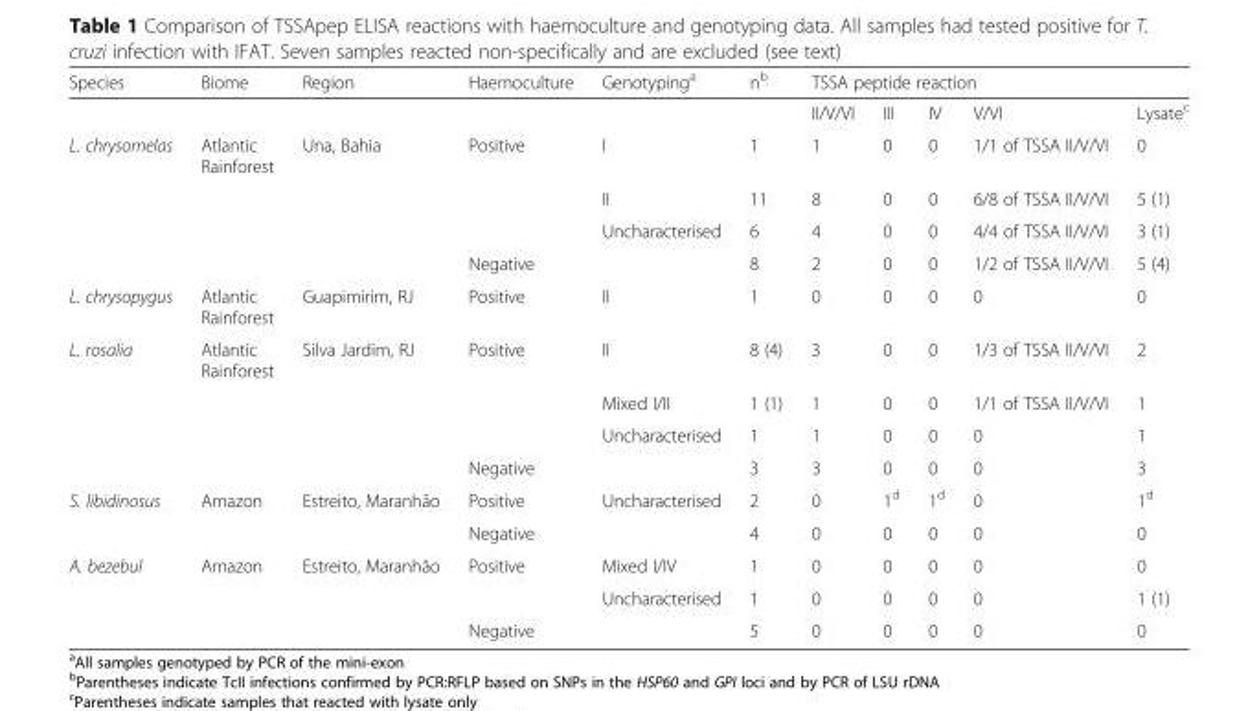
<table><thead><tr><td rowspan="2">Species</td><td rowspan="2">Biome</td><td rowspan="2">Region</td><td rowspan="2">Haemoculture</td><td rowspan="2">Genotyping<sup>a</sup></td><td rowspan="2">n<sup>b</sup></td><td colspan="4">TSSA peptide reaction</td><td rowspan="2">Lysate<sup>c</sup></td></tr><tr><td>II/V/VI</td><td>III</td><td>IV</td><td>V/VI</td></tr></thead><tbody><tr><td rowspan="4">L. chrysomelas</td><td>Atlantic Rainforest</td><td>Una, Bahia</td><td>Positive</td><td>I</td><td>1</td><td>1</td><td>0</td><td>0</td><td>1/1 of TSSA II/V/VI</td><td>0</td></tr><tr><td></td><td></td><td></td><td>II</td><td>11</td><td>8</td><td>0</td><td>0</td><td>6/8 of TSSA II/V/VI</td><td>5 (1)</td></tr><tr><td></td><td></td><td></td><td>Uncharacterised</td><td>6</td><td>4</td><td>0</td><td>0</td><td>4/4 of TSSA II/V/VI</td><td>3 (1)</td></tr><tr><td></td><td></td><td>Negative</td><td></td><td>8</td><td>2</td><td>0</td><td>0</td><td>1/2 of TSSA II/V/VI</td><td>5 (4)</td></tr><tr><td>L. chrysopygus</td><td>Atlantic Rainforest</td><td>Guapimirim, RJ</td><td>Positive</td><td>II</td><td>1</td><td>0</td><td>0</td><td>0</td><td>0</td><td>0</td></tr><tr><td rowspan="4">L. rosalia</td><td>Atlantic Rainforest</td><td>Silva Jardim, RJ</td><td>Positive</td><td>II</td><td>8 (4)</td><td>3</td><td>0</td><td>0</td><td>1/3 of TSSA II/V/VI</td><td>2</td></tr><tr><td></td><td></td><td></td><td>Mixed I/II</td><td>1 (1)</td><td>1</td><td>0</td><td>0</td><td>1/1 of TSSA II/V/VI</td><td>1</td></tr><tr><td></td><td></td><td></td><td>Uncharacterised</td><td>1</td><td>1</td><td>0</td><td>0</td><td>0</td><td>1</td></tr><tr><td></td><td></td><td>Negative</td><td></td><td>3</td><td>3</td><td>0</td><td>0</td><td>0</td><td>3</td></tr><tr><td rowspan="2">S. libidinosus</td><td>Amazon</td><td>Estreito, Maranhão</td><td>Positive</td><td>Uncharacterised</td><td>2</td><td>0</td><td>1<sup>d</sup></td><td>1<sup>d</sup></td><td>0</td><td>1<sup>d</sup></td></tr><tr><td></td><td></td><td>Negative</td><td></td><td>4</td><td>0</td><td>0</td><td>0</td><td>0</td><td>0</td></tr><tr><td rowspan="3">A. bezebul</td><td>Amazon</td><td>Estreito, Maranhão</td><td>Positive</td><td>Mixed I/IV</td><td>1</td><td>0</td><td>0</td><td>0</td><td>0</td><td>0</td></tr><tr><td></td><td></td><td></td><td>Uncharacterised</td><td>1</td><td>0</td><td>0</td><td>0</td><td>0</td><td>1 (1)</td></tr><tr><td></td><td></td><td>Negative</td><td></td><td>5</td><td>0</td><td>0</td><td>0</td><td>0</td><td>0</td></tr></tbody></table>